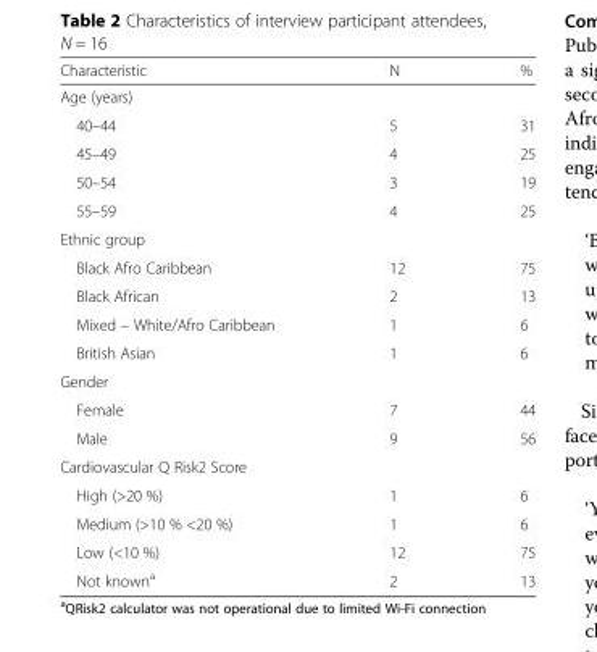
<table><thead><tr><td>Characteristic</td><td>N</td><td>%</td></tr></thead><tbody><tr><td colspan="3">Age (years)</td></tr><tr><td>40–44</td><td>5</td><td>31</td></tr><tr><td>45–49</td><td>4</td><td>25</td></tr><tr><td>50–54</td><td>3</td><td>19</td></tr><tr><td>55–59</td><td>4</td><td>25</td></tr><tr><td colspan="3">Ethnic group</td></tr><tr><td>Black Afro Caribbean</td><td>12</td><td>75</td></tr><tr><td>Black African</td><td>2</td><td>13</td></tr><tr><td>Mixed – White/Afro Caribbean</td><td>1</td><td>6</td></tr><tr><td>British Asian</td><td>1</td><td>6</td></tr><tr><td colspan="3">Gender</td></tr><tr><td>Female</td><td>7</td><td>44</td></tr><tr><td>Male</td><td>9</td><td>56</td></tr><tr><td colspan="3">Cardiovascular Q Risk2 Score</td></tr><tr><td>High (&gt;20 %)</td><td>1</td><td>6</td></tr><tr><td>Medium (&gt;10 % &lt;20 %)</td><td>1</td><td>6</td></tr><tr><td>Low (&lt;10 %)</td><td>12</td><td>75</td></tr><tr><td>Not known<sup>a</sup></td><td>2</td><td>13</td></tr></tbody></table>